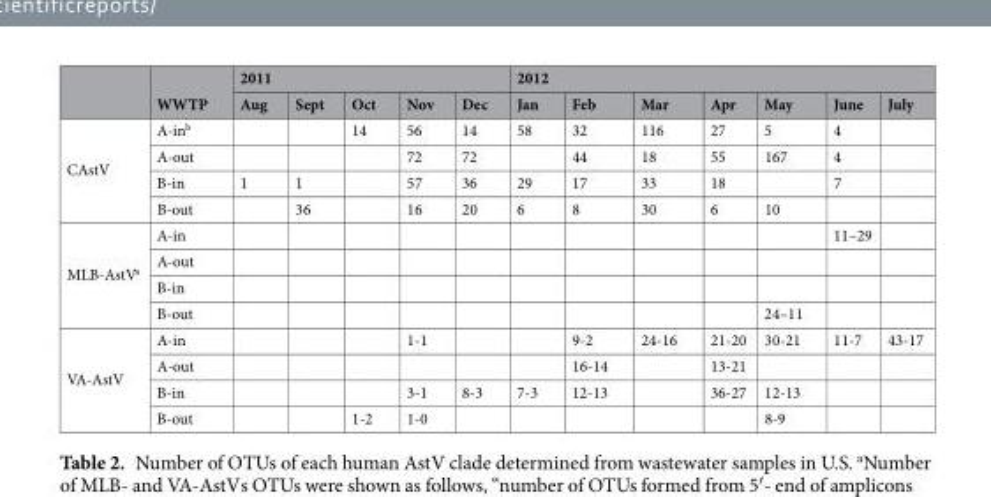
<table><thead><tr><td rowspan="2"></td><td rowspan="2">WWTP</td><td colspan="5">2011</td><td colspan="7">2012</td></tr><tr><td>Aug</td><td>Sept</td><td>Oct</td><td>Nov</td><td>Dec</td><td>Jan</td><td>Feb</td><td>Mar</td><td>Apr</td><td>May</td><td>June</td><td>July</td></tr></thead><tbody><tr><td rowspan="4">CAstV</td><td>A-in<sup>b</sup></td><td></td><td></td><td>14</td><td>56</td><td>14</td><td>58</td><td>32</td><td>116</td><td>27</td><td>5</td><td>4</td><td></td></tr><tr><td>A-out</td><td></td><td></td><td></td><td>72</td><td>72</td><td></td><td>44</td><td>18</td><td>55</td><td>167</td><td>4</td><td></td></tr><tr><td>B-in</td><td>1</td><td>1</td><td></td><td>57</td><td>36</td><td>29</td><td>17</td><td>33</td><td>18</td><td></td><td>7</td><td></td></tr><tr><td>B-out</td><td></td><td>36</td><td></td><td>16</td><td>20</td><td>6</td><td>8</td><td>30</td><td>6</td><td>10</td><td></td><td></td></tr><tr><td rowspan="4">MLB-AstV<sup>a</sup></td><td>A-in</td><td></td><td></td><td></td><td></td><td></td><td></td><td></td><td></td><td></td><td></td><td>11–29</td><td></td></tr><tr><td>A-out</td><td></td><td></td><td></td><td></td><td></td><td></td><td></td><td></td><td></td><td></td><td></td><td></td></tr><tr><td>B-in</td><td></td><td></td><td></td><td></td><td></td><td></td><td></td><td></td><td></td><td></td><td></td><td></td></tr><tr><td>B-out</td><td></td><td></td><td></td><td></td><td></td><td></td><td></td><td></td><td></td><td>24–11</td><td></td><td></td></tr><tr><td rowspan="4">VA-AstV</td><td>A-in</td><td></td><td></td><td></td><td>1-1</td><td></td><td></td><td>9-2</td><td>24-16</td><td>21-20</td><td>30-21</td><td>11-7</td><td>43-17</td></tr><tr><td>A-out</td><td></td><td></td><td></td><td></td><td></td><td></td><td>16-14</td><td></td><td>13-21</td><td></td><td></td><td></td></tr><tr><td>B-in</td><td></td><td></td><td></td><td>3-1</td><td>8-3</td><td>7-3</td><td>12-13</td><td></td><td>36-27</td><td>12-13</td><td></td><td></td></tr><tr><td>B-out</td><td></td><td></td><td>1-2</td><td>1-0</td><td></td><td></td><td></td><td></td><td></td><td>8-9</td><td></td><td></td></tr></tbody></table>